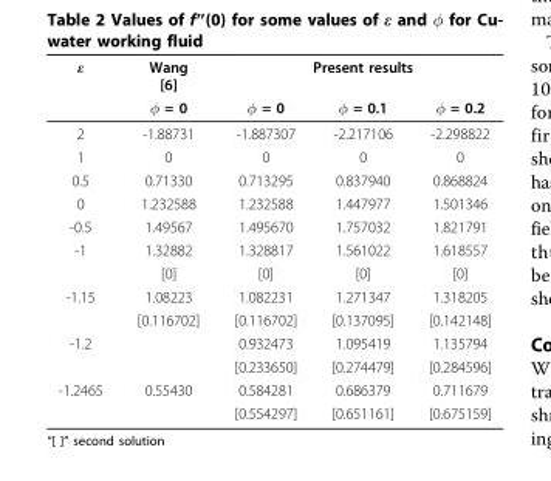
<table><thead><tr><td rowspan="2">ε</td><td rowspan="2">Wang [6] φ = 0</td><td colspan="3">Present results</td></tr><tr><td>φ = 0</td><td>φ = 0.1</td><td>φ = 0.2</td></tr></thead><tbody><tr><td>2</td><td>-1.88731</td><td>-1.887307</td><td>-2.217106</td><td>-2.298822</td></tr><tr><td>1</td><td>0</td><td>0</td><td>0</td><td>0</td></tr><tr><td>0.5</td><td>0.71330</td><td>0.713295</td><td>0.837940</td><td>0.868824</td></tr><tr><td>0</td><td>1.232588</td><td>1.232588</td><td>1.447977</td><td>1.501346</td></tr><tr><td>-0.5</td><td>1.49567</td><td>1.495670</td><td>1.757032</td><td>1.821791</td></tr><tr><td rowspan="2">-1</td><td>1.32882</td><td>1.328817</td><td>1.561022</td><td>1.618557</td></tr><tr><td>[0]</td><td>[0]</td><td>[0]</td><td>[0]</td></tr><tr><td rowspan="2">-1.15</td><td>1.08223</td><td>1.082231</td><td>1.271347</td><td>1.318205</td></tr><tr><td>[0.116702]</td><td>[0.116702]</td><td>[0.137095]</td><td>[0.142148]</td></tr><tr><td rowspan="2">-1.2</td><td></td><td>0.932473</td><td>1.095419</td><td>1.135794</td></tr><tr><td></td><td>[0.233650]</td><td>[0.274479]</td><td>[0.284596]</td></tr><tr><td rowspan="2">-1.2465</td><td>0.55430</td><td>0.584281</td><td>0.686379</td><td>0.711679</td></tr><tr><td></td><td>[0.554297]</td><td>[0.651161]</td><td>[0.675159]</td></tr></tbody></table>